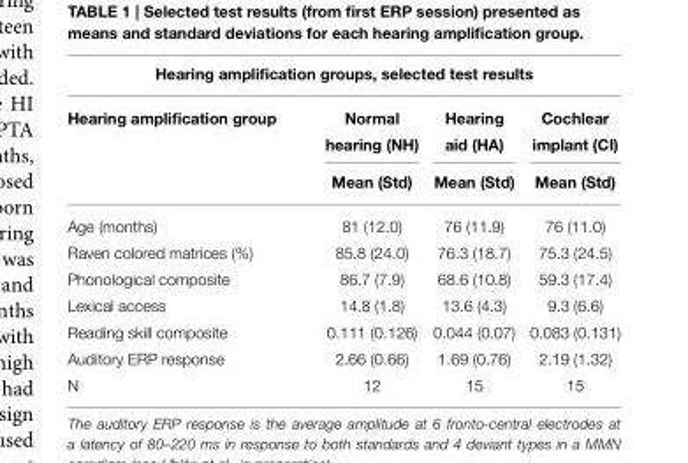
<table><thead><tr><td colspan="4">Hearing amplification groups, selected test results</td></tr><tr><td rowspan="2">Hearing amplification group</td><td rowspan="2">Normal hearing (NH) Mean (Std)</td><td rowspan="2">Hearing aid (HA) Mean (Std)</td><td rowspan="2">Cochlear implant (CI) Mean (Std)</td></tr><tr></tr></thead><tbody><tr><td>Age (months)</td><td>81 (12.0)</td><td>76 (11.9)</td><td>76 (11.0)</td></tr><tr><td>Raven colored matrices (%)</td><td>85.8 (24.0)</td><td>76.3 (18.7)</td><td>75.3 (24.5)</td></tr><tr><td>Phonological composite</td><td>86.7 (7.9)</td><td>68.6 (10.8)</td><td>59.3 (17.4)</td></tr><tr><td>Lexical access</td><td>14.8 (1.8)</td><td>13.6 (4.3)</td><td>9.3 (6.6)</td></tr><tr><td>Reading skill composite</td><td>0.111 (0.126)</td><td>0.044 (0.07)</td><td>0.083 (0.131)</td></tr><tr><td>Auditory ERP response</td><td>2.66 (0.66)</td><td>1.69 (0.76)</td><td>2.19 (1.32)</td></tr><tr><td>N</td><td>12</td><td>15</td><td>15</td></tr></tbody></table>